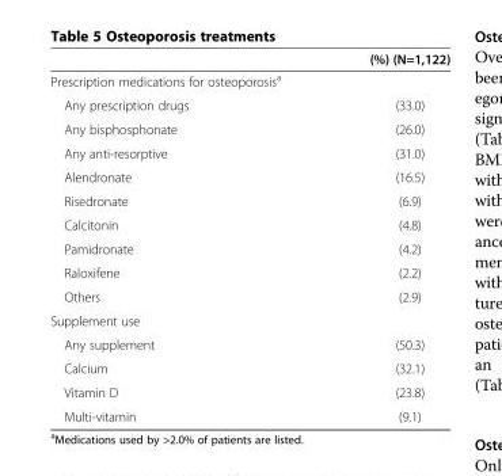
<table><thead><tr><td></td><td>(%) (N=1,122)</td></tr></thead><tbody><tr><td colspan="2">Prescription medications for osteoporosis<sup>a</sup></td></tr><tr><td>Any prescription drugs</td><td>(33.0)</td></tr><tr><td>Any bisphosphonate</td><td>(26.0)</td></tr><tr><td>Any anti-resorptive</td><td>(31.0)</td></tr><tr><td>Alendronate</td><td>(16.5)</td></tr><tr><td>Risedronate</td><td>(6.9)</td></tr><tr><td>Calcitonin</td><td>(4.8)</td></tr><tr><td>Pamidronate</td><td>(4.2)</td></tr><tr><td>Raloxifene</td><td>(2.2)</td></tr><tr><td>Others</td><td>(2.9)</td></tr><tr><td colspan="2">Supplement use</td></tr><tr><td>Any supplement</td><td>(50.3)</td></tr><tr><td>Calcium</td><td>(32.1)</td></tr><tr><td>Vitamin D</td><td>(23.8)</td></tr><tr><td>Multi-vitamin</td><td>(9.1)</td></tr></tbody></table>